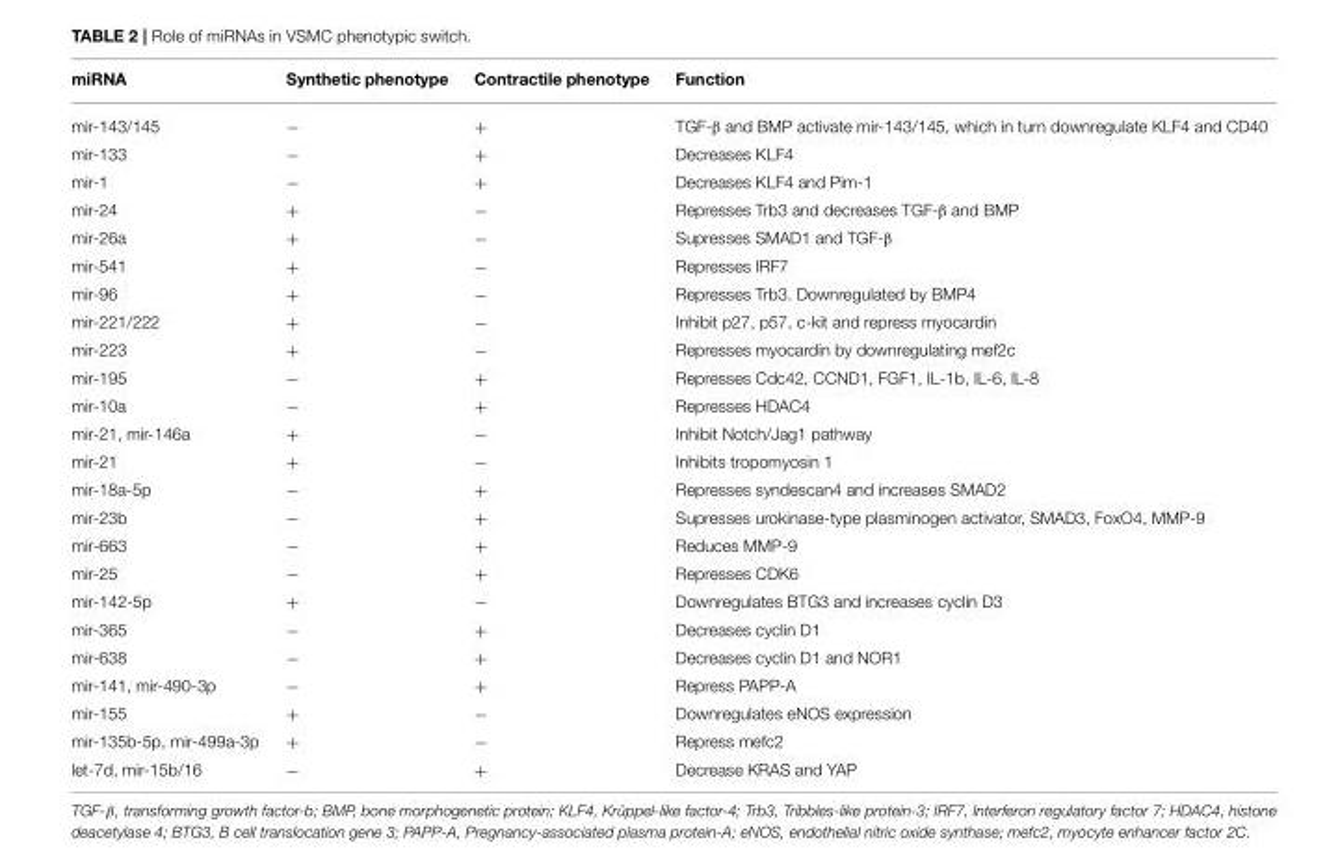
<table><thead><tr><td>miRNA</td><td>Synthetic phenotype</td><td>Contractile phenotype</td><td>Function</td></tr></thead><tbody><tr><td>mir-143/145</td><td>−</td><td>+</td><td>TGF-β and BMP activate mir-143/145, which in turn downregulate KLF4 and CD40</td></tr><tr><td>mir-133</td><td>−</td><td>+</td><td>Decreases KLF4</td></tr><tr><td>mir-1</td><td>−</td><td>+</td><td>Decreases KLF4 and Pim-1</td></tr><tr><td>mir-24</td><td>+</td><td>−</td><td>Represses Trb3 and decreases TGF-β and BMP</td></tr><tr><td>mir-26a</td><td>+</td><td>−</td><td>Supresses SMAD1 and TGF-β</td></tr><tr><td>mir-541</td><td>+</td><td>−</td><td>Represses IRF7</td></tr><tr><td>mir-96</td><td>+</td><td>−</td><td>Represses Trb3. Downregulated by BMP4</td></tr><tr><td>mir-221/222</td><td>+</td><td>−</td><td>Inhibit p27, p57, c-kit and repress myocardin</td></tr><tr><td>mir-223</td><td>+</td><td>−</td><td>Represses myocardin by downregulating mef2c</td></tr><tr><td>mir-195</td><td>−</td><td>+</td><td>Represses Cdc42, CCND1, FGF1, IL-1b, IL-6, IL-8</td></tr><tr><td>mir-10a</td><td>−</td><td>+</td><td>Represses HDAC4</td></tr><tr><td>mir-21, mir-146a</td><td>+</td><td>−</td><td>Inhibit Notch/Jag1 pathway</td></tr><tr><td>mir-21</td><td>+</td><td>−</td><td>Inhibits tropomyosin 1</td></tr><tr><td>mir-18a-5p</td><td>−</td><td>+</td><td>Represses syndescan4 and increases SMAD2</td></tr><tr><td>mir-23b</td><td>−</td><td>+</td><td>Supresses urokinase-type plasminogen activator, SMAD3, FoxO4, MMP-9</td></tr><tr><td>mir-663</td><td>−</td><td>+</td><td>Reduces MMP-9</td></tr><tr><td>mir-25</td><td>−</td><td>+</td><td>Represses CDK6</td></tr><tr><td>mir-142-5p</td><td>+</td><td>−</td><td>Downregulates BTG3 and increases cyclin D3</td></tr><tr><td>mir-365</td><td>−</td><td>+</td><td>Decreases cyclin D1</td></tr><tr><td>mir-638</td><td>−</td><td>+</td><td>Decreases cyclin D1 and NOR1</td></tr><tr><td>mir-141, mir-490-3p</td><td>−</td><td>+</td><td>Repress PAPP-A</td></tr><tr><td>mir-155</td><td>+</td><td>−</td><td>Downregulates eNOS expression</td></tr><tr><td>mir-135b-5p, mir-499a-3p</td><td>+</td><td>−</td><td>Repress mefc2</td></tr><tr><td>let-7d, mir-15b/16</td><td>−</td><td>+</td><td>Decrease KRAS and YAP</td></tr></tbody></table>